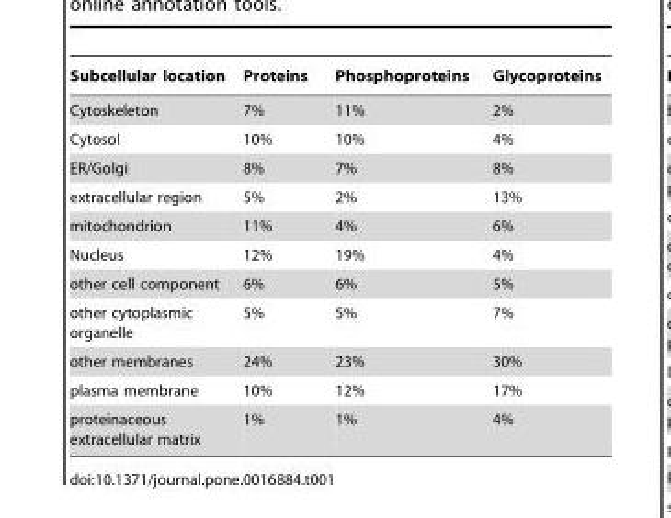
<table><thead><tr><td>Subcellular location</td><td>Proteins</td><td>Phosphoproteins</td><td>Glycoproteins</td></tr></thead><tbody><tr><td>Cytoskeleton</td><td>7%</td><td>11%</td><td>2%</td></tr><tr><td>Cytosol</td><td>10%</td><td>10%</td><td>4%</td></tr><tr><td>ER/Golgi</td><td>8%</td><td>7%</td><td>8%</td></tr><tr><td>extracellular region</td><td>5%</td><td>2%</td><td>13%</td></tr><tr><td>mitochondrion</td><td>11%</td><td>4%</td><td>6%</td></tr><tr><td>Nucleus</td><td>12%</td><td>19%</td><td>4%</td></tr><tr><td>other cell component</td><td>6%</td><td>6%</td><td>5%</td></tr><tr><td>other cytoplasmic organelle</td><td>5%</td><td>5%</td><td>7%</td></tr><tr><td>other membranes</td><td>24%</td><td>23%</td><td>30%</td></tr><tr><td>plasma membrane</td><td>10%</td><td>12%</td><td>17%</td></tr><tr><td>proteinaceous extracellular matrix</td><td>1%</td><td>1%</td><td>4%</td></tr></tbody></table>